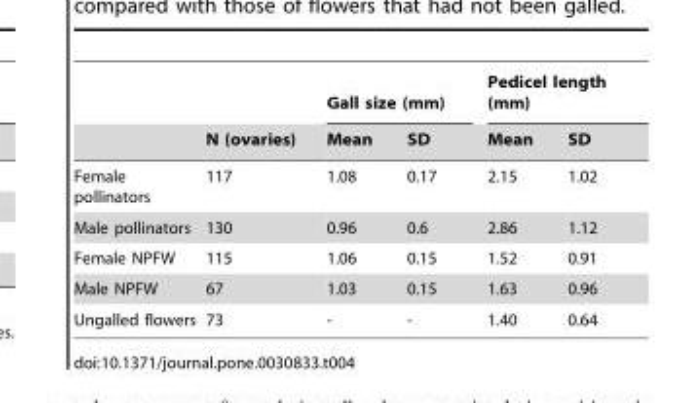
<table><thead><tr><td rowspan="2"></td><td rowspan="2">N (ovaries)</td><td colspan="2">Gall size (mm)</td><td colspan="2">Pedicel length (mm)</td></tr><tr><td>Mean</td><td>SD</td><td>Mean</td><td>SD</td></tr></thead><tbody><tr><td>Female pollinators</td><td>117</td><td>1.08</td><td>0.17</td><td>2.15</td><td>1.02</td></tr><tr><td>Male pollinators</td><td>130</td><td>0.96</td><td>0.6</td><td>2.86</td><td>1.12</td></tr><tr><td>Female NPFW</td><td>115</td><td>1.06</td><td>0.15</td><td>1.52</td><td>0.91</td></tr><tr><td>Male NPFW</td><td>67</td><td>1.03</td><td>0.15</td><td>1.63</td><td>0.96</td></tr><tr><td>Ungalled flowers</td><td>73</td><td>-</td><td>-</td><td>1.40</td><td>0.64</td></tr></tbody></table>